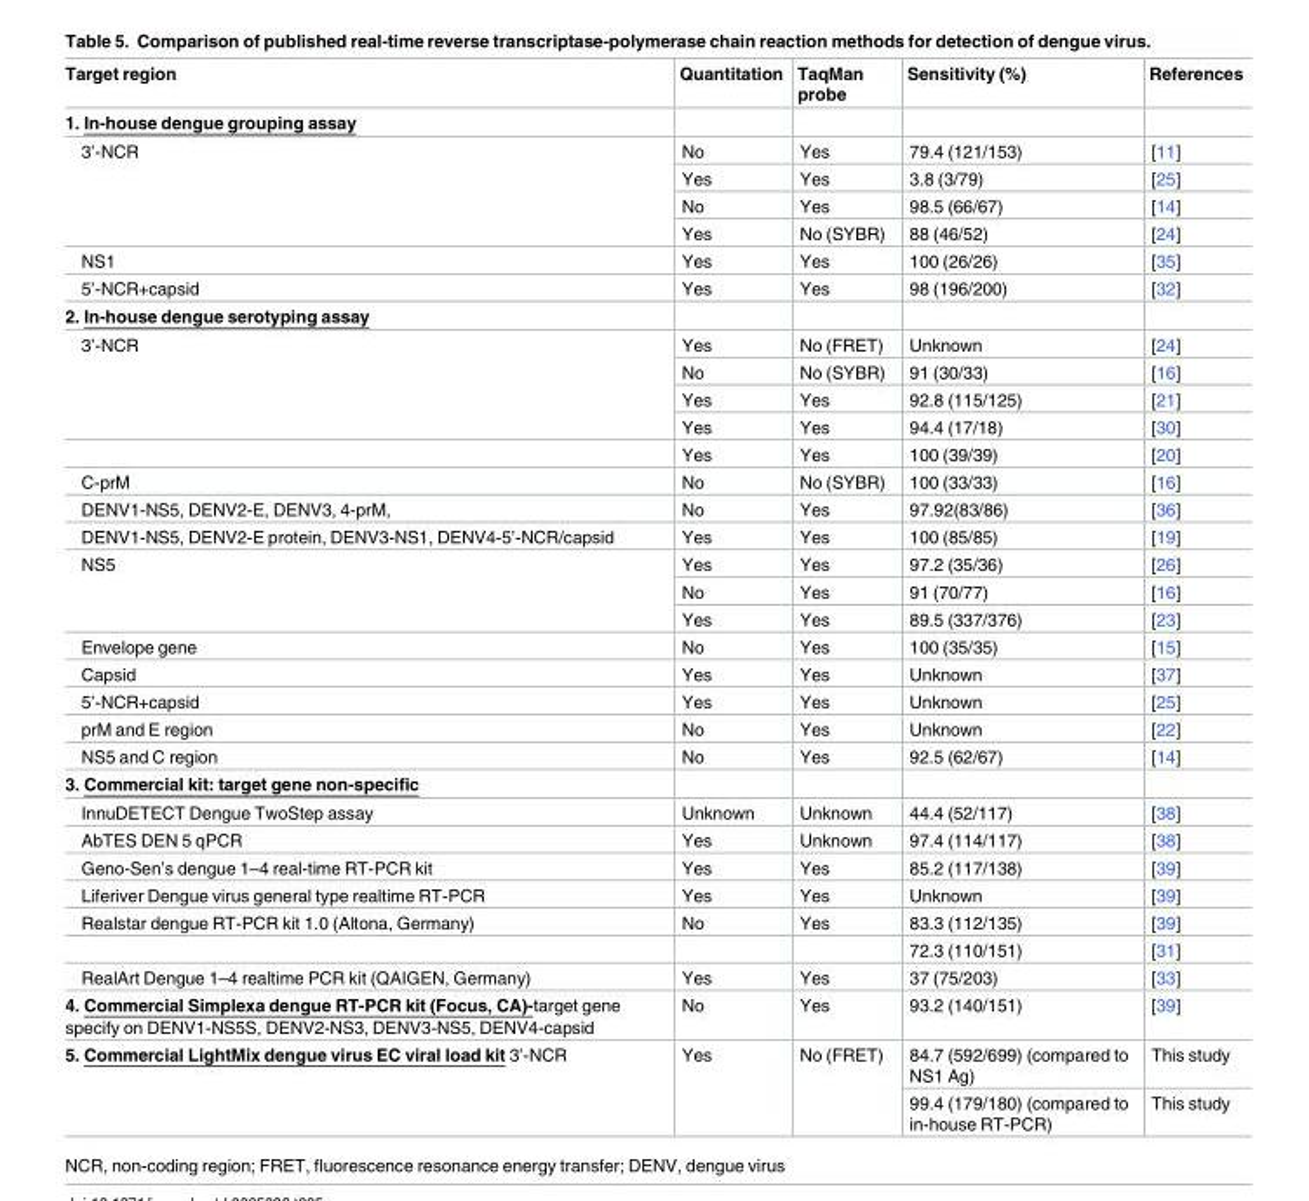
<table><thead><tr><td>Target region</td><td>Quantitation</td><td>TaqMan probe</td><td>Sensitivity (%)</td><td>References</td></tr></thead><tbody><tr><td colspan="5">1. In-house dengue grouping assay</td></tr><tr><td rowspan="4">3’-NCR</td><td>No</td><td>Yes</td><td>79.4 (121/153)</td><td>[11]</td></tr><tr><td>Yes</td><td>Yes</td><td>3.8 (3/79)</td><td>[25]</td></tr><tr><td>No</td><td>Yes</td><td>98.5 (66/67)</td><td>[14]</td></tr><tr><td>Yes</td><td>No (SYBR)</td><td>88 (46/52)</td><td>[24]</td></tr><tr><td>NS1</td><td>Yes</td><td>Yes</td><td>100 (26/26)</td><td>[35]</td></tr><tr><td>5’-NCR+capsid</td><td>Yes</td><td>Yes</td><td>98 (196/200)</td><td>[32]</td></tr><tr><td colspan="5">2. In-house dengue serotyping assay</td></tr><tr><td rowspan="5">3’-NCR</td><td>Yes</td><td>No (FRET)</td><td>Unknown</td><td>[24]</td></tr><tr><td>No</td><td>No (SYBR)</td><td>91 (30/33)</td><td>[16]</td></tr><tr><td>Yes</td><td>Yes</td><td>92.8 (115/125)</td><td>[21]</td></tr><tr><td>Yes</td><td>Yes</td><td>94.4 (17/18)</td><td>[30]</td></tr><tr><td>Yes</td><td>Yes</td><td>100 (39/39)</td><td>[20]</td></tr><tr><td>C-prM</td><td>No</td><td>No (SYBR)</td><td>100 (33/33)</td><td>[16]</td></tr><tr><td>DENV1-NS5, DENV2-E, DENV3, 4-prM,</td><td>No</td><td>Yes</td><td>97.92(83/86)</td><td>[36]</td></tr><tr><td>DENV1-NS5, DENV2-E protein, DENV3-NS1, DENV4-5’-NCR/capsid</td><td>Yes</td><td>Yes</td><td>100 (85/85)</td><td>[19]</td></tr><tr><td rowspan="3">NS5</td><td>Yes</td><td>Yes</td><td>97.2 (35/36)</td><td>[26]</td></tr><tr><td>No</td><td>Yes</td><td>91 (70/77)</td><td>[16]</td></tr><tr><td>Yes</td><td>Yes</td><td>89.5 (337/376)</td><td>[23]</td></tr><tr><td>Envelope gene</td><td>No</td><td>Yes</td><td>100 (35/35)</td><td>[15]</td></tr><tr><td>Capsid</td><td>Yes</td><td>Yes</td><td>Unknown</td><td>[37]</td></tr><tr><td>5’-NCR+capsid</td><td>Yes</td><td>Yes</td><td>Unknown</td><td>[25]</td></tr><tr><td>prM and E region</td><td>No</td><td>Yes</td><td>Unknown</td><td>[22]</td></tr><tr><td>NS5 and C region</td><td>No</td><td>Yes</td><td>92.5 (62/67)</td><td>[14]</td></tr><tr><td colspan="5">3. Commercial kit: target gene non-specific</td></tr><tr><td>InnuDETECT Dengue TwoStep assay</td><td>Unknown</td><td>Unknown</td><td>44.4 (52/117)</td><td>[38]</td></tr><tr><td>AbTES DEN 5 qPCR</td><td>Yes</td><td>Unknown</td><td>97.4 (114/117)</td><td>[38]</td></tr><tr><td>Geno-Sen’s dengue 1–4 real-time RT-PCR kit</td><td>Yes</td><td>Yes</td><td>85.2 (117/138)</td><td>[39]</td></tr><tr><td>Liferiver Dengue virus general type realtime RT-PCR</td><td>Yes</td><td>Yes</td><td>Unknown</td><td>[39]</td></tr><tr><td rowspan="2">Realstar dengue RT-PCR kit 1.0 (Altona, Germany)</td><td>No</td><td>Yes</td><td>83.3 (112/135)</td><td>[39]</td></tr><tr><td></td><td></td><td>72.3 (110/151)</td><td>[31]</td></tr><tr><td>RealArt Dengue 1–4 realtime PCR kit (QAIGEN, Germany)</td><td>Yes</td><td>Yes</td><td>37 (75/203)</td><td>[33]</td></tr><tr><td>4. Commercial Simplexa dengue RT-PCR kit (Focus, CA)-target gene specify on DENV1-NS5S, DENV2-NS3, DENV3-NS5, DENV4-capsid</td><td>No</td><td>Yes</td><td>93.2 (140/151)</td><td>[39]</td></tr><tr><td rowspan="2">5. Commercial LightMix dengue virus EC viral load kit 3’-NCR</td><td rowspan="2">Yes</td><td rowspan="2">No (FRET)</td><td>84.7 (592/699) (compared to NS1 Ag)</td><td>This study</td></tr><tr><td>99.4 (179/180) (compared to in-house RT-PCR)</td><td>This study</td></tr></tbody></table>